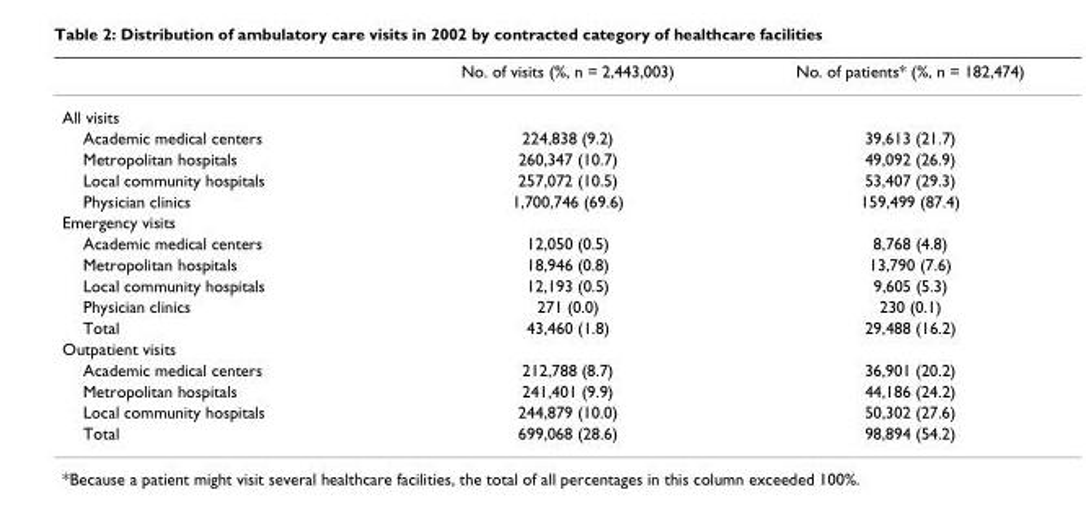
<table><thead><tr><td></td><td>No. of visits (%, n = 2,443,003)</td><td>No. of patients* (%, n = 182,474)</td></tr></thead><tbody><tr><td colspan="3">All visits</td></tr><tr><td>Academic medical centers</td><td>224,838 (9.2)</td><td>39,613 (21.7)</td></tr><tr><td>Metropolitan hospitals</td><td>260,347 (10.7)</td><td>49,092 (26.9)</td></tr><tr><td>Local community hospitals</td><td>257,072 (10.5)</td><td>53,407 (29.3)</td></tr><tr><td>Physician clinics</td><td>1,700,746 (69.6)</td><td>159,499 (87.4)</td></tr><tr><td colspan="3">Emergency visits</td></tr><tr><td>Academic medical centers</td><td>12,050 (0.5)</td><td>8,768 (4.8)</td></tr><tr><td>Metropolitan hospitals</td><td>18,946 (0.8)</td><td>13,790 (7.6)</td></tr><tr><td>Local community hospitals</td><td>12,193 (0.5)</td><td>9,605 (5.3)</td></tr><tr><td>Physician clinics</td><td>271 (0.0)</td><td>230 (0.1)</td></tr><tr><td>Total</td><td>43,460 (1.8)</td><td>29,488 (16.2)</td></tr><tr><td colspan="3">Outpatient visits</td></tr><tr><td>Academic medical centers</td><td>212,788 (8.7)</td><td>36,901 (20.2)</td></tr><tr><td>Metropolitan hospitals</td><td>241,401 (9.9)</td><td>44,186 (24.2)</td></tr><tr><td>Local community hospitals</td><td>244,879 (10.0)</td><td>50,302 (27.6)</td></tr><tr><td>Total</td><td>699,068 (28.6)</td><td>98,894 (54.2)</td></tr></tbody></table>